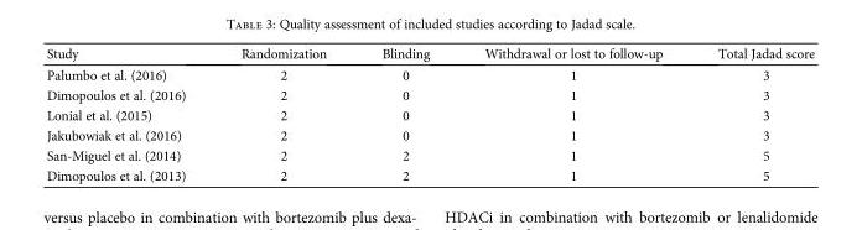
<table><thead><tr><td>Study</td><td>Randomization</td><td>Blinding</td><td>Withdrawal or lost to follow-up</td><td>Total Jadad score</td></tr></thead><tbody><tr><td>Palumbo et al. (2016)</td><td>2</td><td>0</td><td>1</td><td>3</td></tr><tr><td>Dimopoulos et al. (2016)</td><td>2</td><td>0</td><td>1</td><td>3</td></tr><tr><td>Lonial et al. (2015)</td><td>2</td><td>0</td><td>1</td><td>3</td></tr><tr><td>Jakubowiak et al. (2016)</td><td>2</td><td>0</td><td>1</td><td>3</td></tr><tr><td>San-Miguel et al. (2014)</td><td>2</td><td>2</td><td>1</td><td>5</td></tr><tr><td>Dimopoulos et al. (2013)</td><td>2</td><td>2</td><td>1</td><td>5</td></tr></tbody></table>